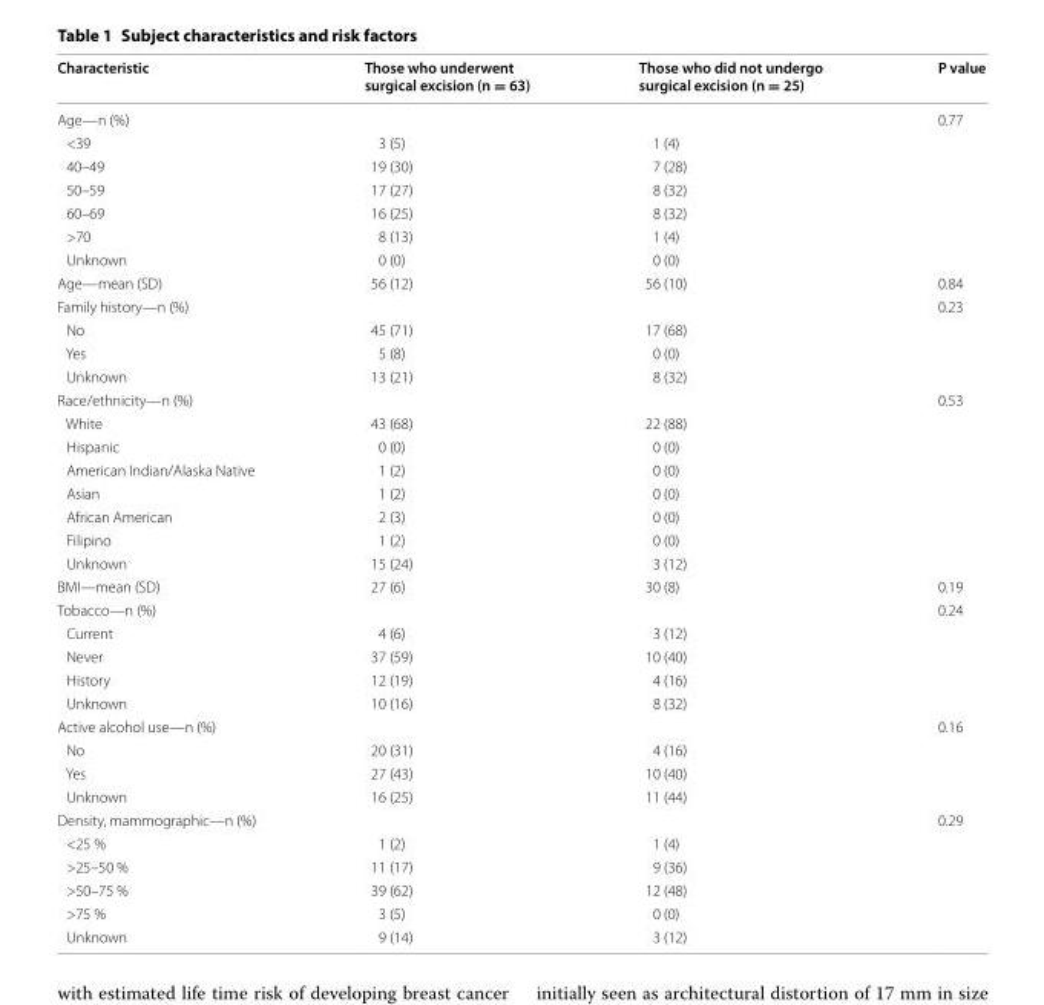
<table><thead><tr><td>Characteristic</td><td>Those who underwent surgical excision (n = 63)</td><td>Those who did not undergo surgical excision (n = 25)</td><td>P value</td></tr></thead><tbody><tr><td>Age—n (%)</td><td></td><td></td><td>0.77</td></tr><tr><td>&lt;39</td><td>3 (5)</td><td>1 (4)</td><td></td></tr><tr><td>40–49</td><td>19 (30)</td><td>7 (28)</td><td></td></tr><tr><td>50–59</td><td>17 (27)</td><td>8 (32)</td><td></td></tr><tr><td>60–69</td><td>16 (25)</td><td>8 (32)</td><td></td></tr><tr><td>&gt;70</td><td>8 (13)</td><td>1 (4)</td><td></td></tr><tr><td>Unknown</td><td>0 (0)</td><td>0 (0)</td><td></td></tr><tr><td>Age—mean (SD)</td><td>56 (12)</td><td>56 (10)</td><td>0.84</td></tr><tr><td>Family history—n (%)</td><td></td><td></td><td>0.23</td></tr><tr><td>No</td><td>45 (71)</td><td>17 (68)</td><td></td></tr><tr><td>Yes</td><td>5 (8)</td><td>0 (0)</td><td></td></tr><tr><td>Unknown</td><td>13 (21)</td><td>8 (32)</td><td></td></tr><tr><td>Race/ethnicity—n (%)</td><td colspan="2"></td><td>0.53</td></tr><tr><td>White</td><td>43 (68)</td><td>22 (88)</td><td></td></tr><tr><td>Hispanic</td><td>0 (0)</td><td>0 (0)</td><td></td></tr><tr><td>American Indian/Alaska Native</td><td>1 (2)</td><td>0 (0)</td><td></td></tr><tr><td>Asian</td><td>1 (2)</td><td>0 (0)</td><td></td></tr><tr><td>African American</td><td>2 (3)</td><td>0 (0)</td><td></td></tr><tr><td>Filipino</td><td>1 (2)</td><td>0 (0)</td><td></td></tr><tr><td>Unknown</td><td>15 (24)</td><td>3 (12)</td><td></td></tr><tr><td>BMI—mean (SD)</td><td>27 (6)</td><td>30 (8)</td><td>0.19</td></tr><tr><td>Tobacco—n (%)</td><td></td><td></td><td>0.24</td></tr><tr><td>Current</td><td>4 (6)</td><td>3 (12)</td><td></td></tr><tr><td>Never</td><td>37 (59)</td><td>10 (40)</td><td></td></tr><tr><td>History</td><td>12 (19)</td><td>4 (16)</td><td></td></tr><tr><td>Unknown</td><td>10 (16)</td><td>8 (32)</td><td></td></tr><tr><td>Active alcohol use—n (%)</td><td></td><td></td><td>0.16</td></tr><tr><td>No</td><td>20 (31)</td><td>4 (16)</td><td></td></tr><tr><td>Yes</td><td>27 (43)</td><td>10 (40)</td><td></td></tr><tr><td>Unknown</td><td>16 (25)</td><td>11 (44)</td><td></td></tr><tr><td>Density, mammographic—n (%)</td><td></td><td></td><td>0.29</td></tr><tr><td>&lt;25 %</td><td>1 (2)</td><td>1 (4)</td><td></td></tr><tr><td>&gt;25–50 %</td><td>11 (17)</td><td>9 (36)</td><td></td></tr><tr><td>&gt;50–75 %</td><td>39 (62)</td><td>12 (48)</td><td></td></tr><tr><td>&gt;75 %</td><td>3 (5)</td><td>0 (0)</td><td></td></tr><tr><td>Unknown</td><td>9 (14)</td><td>3 (12)</td><td></td></tr></tbody></table>